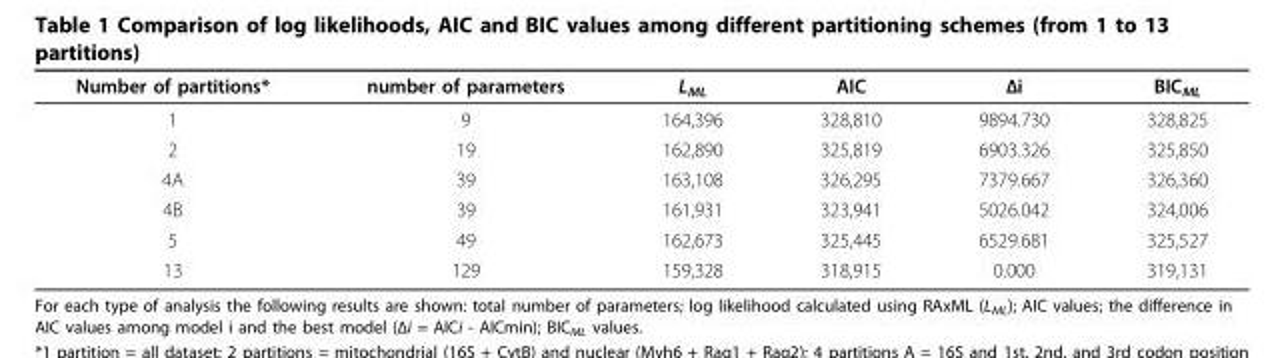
<table><thead><tr><td>Number of partitions*</td><td>number of parameters</td><td>L<sub>ML</sub></td><td>AIC</td><td>Δi</td><td>BIC<sub>ML</sub></td></tr></thead><tbody><tr><td>1</td><td>9</td><td>164,396</td><td>328,810</td><td>9894.730</td><td>328,825</td></tr><tr><td>2</td><td>19</td><td>162,890</td><td>325,819</td><td>6903.326</td><td>325,850</td></tr><tr><td>4A</td><td>39</td><td>163,108</td><td>326,295</td><td>7379.667</td><td>326,360</td></tr><tr><td>4B</td><td>39</td><td>161,931</td><td>323,941</td><td>5026.042</td><td>324,006</td></tr><tr><td>5</td><td>49</td><td>162,673</td><td>325,445</td><td>6529.681</td><td>325,527</td></tr><tr><td>13</td><td>129</td><td>159,328</td><td>318,915</td><td>0.000</td><td>319,131</td></tr></tbody></table>